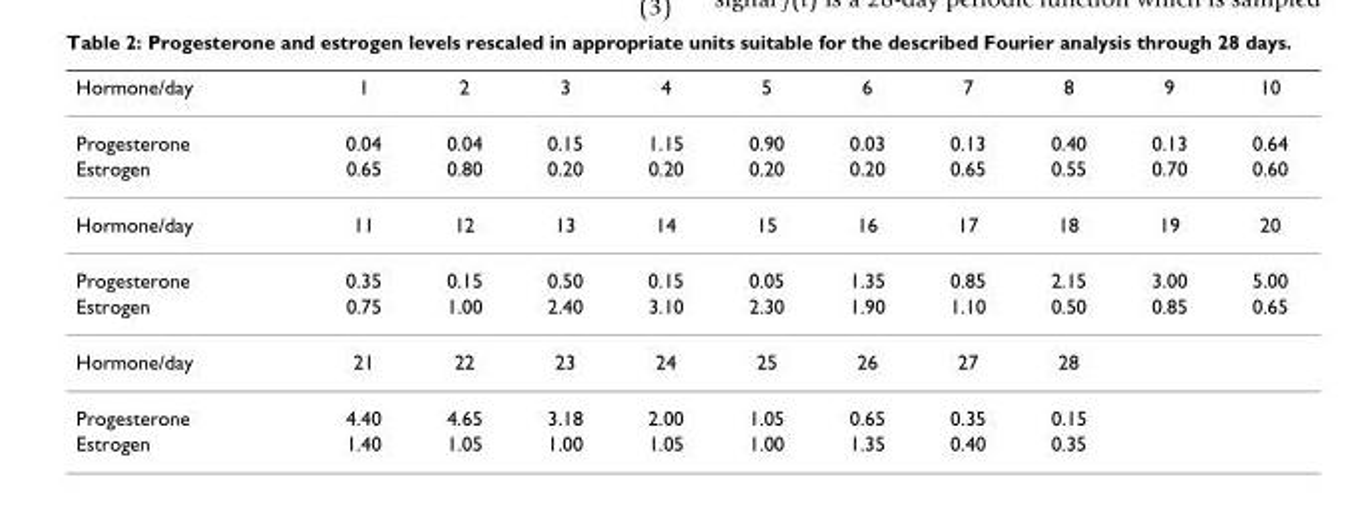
<table><thead><tr><td>Hormone/day</td><td>1</td><td>2</td><td>3</td><td>4</td><td>5</td><td>6</td><td>7</td><td>8</td><td>9</td><td>10</td></tr></thead><tbody><tr><td>Progesterone</td><td>0.04</td><td>0.04</td><td>0.15</td><td>1.15</td><td>0.90</td><td>0.03</td><td>0.13</td><td>0.40</td><td>0.13</td><td>0.64</td></tr><tr><td>Estrogen</td><td>0.65</td><td>0.80</td><td>0.20</td><td>0.20</td><td>0.20</td><td>0.20</td><td>0.65</td><td>0.55</td><td>0.70</td><td>0.60</td></tr><tr><td>Hormone/day</td><td>11</td><td>12</td><td>13</td><td>14</td><td>15</td><td>16</td><td>17</td><td>18</td><td>19</td><td>20</td></tr><tr><td>Progesterone</td><td>0.35</td><td>0.15</td><td>0.50</td><td>0.15</td><td>0.05</td><td>1.35</td><td>0.85</td><td>2.15</td><td>3.00</td><td>5.00</td></tr><tr><td>Estrogen</td><td>0.75</td><td>1.00</td><td>2.40</td><td>3.10</td><td>2.30</td><td>1.90</td><td>1.10</td><td>0.50</td><td>0.85</td><td>0.65</td></tr><tr><td>Hormone/day</td><td>21</td><td>22</td><td>23</td><td>24</td><td>25</td><td>26</td><td>27</td><td>28</td><td></td><td></td></tr><tr><td>Progesterone</td><td>4.40</td><td>4.65</td><td>3.18</td><td>2.00</td><td>1.05</td><td>0.65</td><td>0.35</td><td>0.15</td><td></td><td></td></tr><tr><td>Estrogen</td><td>1.40</td><td>1.05</td><td>1.00</td><td>1.05</td><td>1.00</td><td>1.35</td><td>0.40</td><td>0.35</td><td></td><td></td></tr></tbody></table>